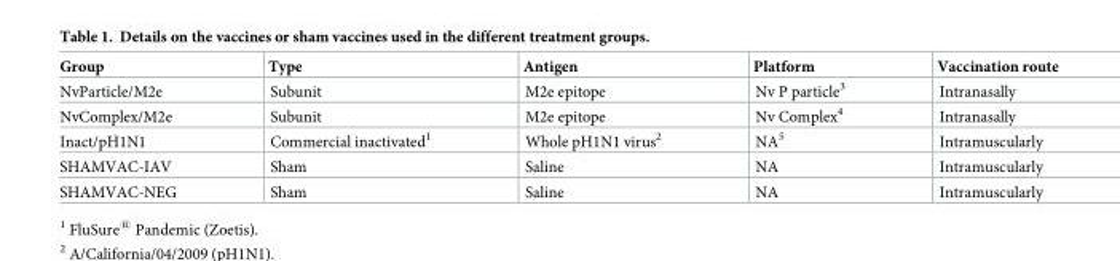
<table><thead><tr><td>Group</td><td>Type</td><td>Antigen</td><td>Platform</td><td>Vaccination route</td></tr></thead><tbody><tr><td>NvParticle/M2e</td><td>Subunit</td><td>M2e epitope</td><td>Nv P particle<sup>3</sup></td><td>Intranasally</td></tr><tr><td>NvComplex/M2e</td><td>Subunit</td><td>M2e epitope</td><td>Nv Complex<sup>4</sup></td><td>Intranasally</td></tr><tr><td>Inact/pH1N1</td><td>Commercial inactivated<sup>1</sup></td><td>Whole pH1N1 virus<sup>2</sup></td><td>NA<sup>5</sup></td><td>Intramuscularly</td></tr><tr><td>SHAMVAC-IAV</td><td>Sham</td><td>Saline</td><td>NA</td><td>Intramuscularly</td></tr><tr><td>SHAMVAC-NEG</td><td>Sham</td><td>Saline</td><td>NA</td><td>Intramuscularly</td></tr></tbody></table>